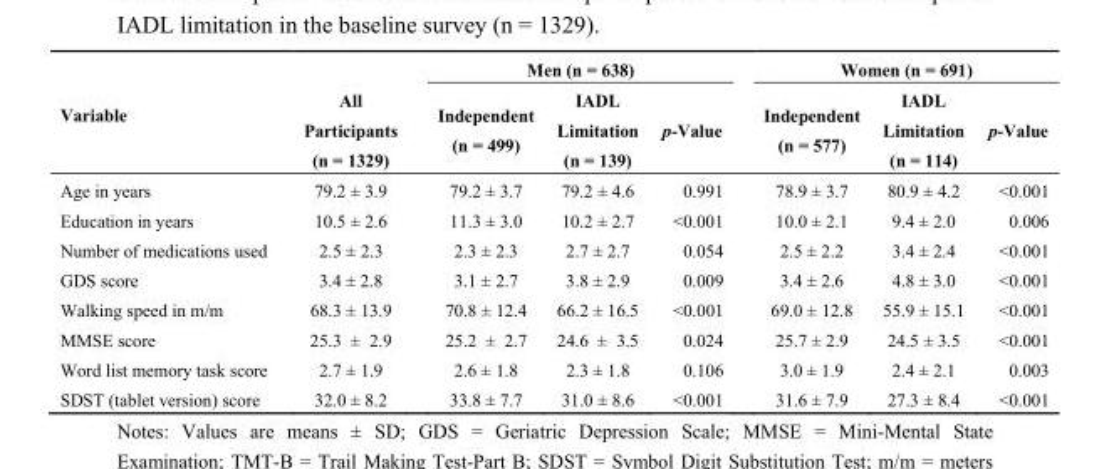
<table><thead><tr><td rowspan="2">Variable</td><td rowspan="2">All Participants (n = 1329)</td><td colspan="3">Men (n = 638)</td><td colspan="3">Women (n = 691)</td></tr><tr><td>Independent (n = 499)</td><td>IADL Limitation (n = 139)</td><td>p-Value</td><td>Independent (n = 577)</td><td>IADL Limitation (n = 114)</td><td>p-Value</td></tr></thead><tbody><tr><td>Age in years</td><td>79.2 ± 3.9</td><td>79.2 ± 3.7</td><td>79.2 ± 4.6</td><td>0.991</td><td>78.9 ± 3.7</td><td>80.9 ± 4.2</td><td>&lt;0.001</td></tr><tr><td>Education in years</td><td>10.5 ± 2.6</td><td>11.3 ± 3.0</td><td>10.2 ± 2.7</td><td>&lt;0.001</td><td>10.0 ± 2.1</td><td>9.4 ± 2.0</td><td>0.006</td></tr><tr><td>Number of medications used</td><td>2.5 ± 2.3</td><td>2.3 ± 2.3</td><td>2.7 ± 2.7</td><td>0.054</td><td>2.5 ± 2.2</td><td>3.4 ± 2.4</td><td>&lt;0.001</td></tr><tr><td>GDS score</td><td>3.4 ± 2.8</td><td>3.1 ± 2.7</td><td>3.8 ± 2.9</td><td>0.009</td><td>3.4 ± 2.6</td><td>4.8 ± 3.0</td><td>&lt;0.001</td></tr><tr><td>Walking speed in m/m</td><td>68.3 ± 13.9</td><td>70.8 ± 12.4</td><td>66.2 ± 16.5</td><td>&lt;0.001</td><td>69.0 ± 12.8</td><td>55.9 ± 15.1</td><td>&lt;0.001</td></tr><tr><td>MMSE score</td><td>25.3 ± 2.9</td><td>25.2 ± 2.7</td><td>24.6 ± 3.5</td><td>0.024</td><td>25.7 ± 2.9</td><td>24.5 ± 3.5</td><td>&lt;0.001</td></tr><tr><td>Word list memory task score</td><td>2.7 ± 1.9</td><td>2.6 ± 1.8</td><td>2.3 ± 1.8</td><td>0.106</td><td>3.0 ± 1.9</td><td>2.4 ± 2.1</td><td>0.003</td></tr><tr><td>SDST (tablet version) score</td><td>32.0 ± 8.2</td><td>33.8 ± 7.7</td><td>31.0 ± 8.6</td><td>&lt;0.001</td><td>31.6 ± 7.9</td><td>27.3 ± 8.4</td><td>&lt;0.001</td></tr></tbody></table>